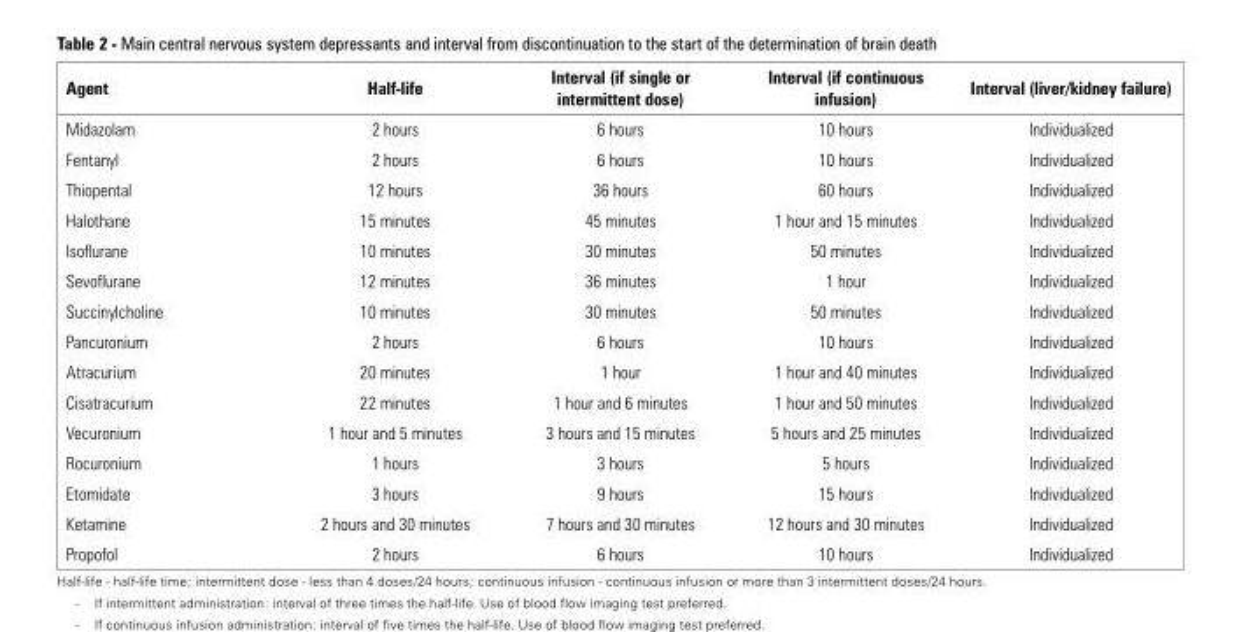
<table><thead><tr><td>Agent</td><td>Half-life</td><td>Interval (if single or intermittent dose)</td><td>Interval (if continuous infusion)</td><td>Interval (liver/kidney failure)</td></tr></thead><tbody><tr><td>Midazolam</td><td>2 hours</td><td>6 hours</td><td>10 hours</td><td>Individualized</td></tr><tr><td>Fentanyl</td><td>2 hours</td><td>6 hours</td><td>10 hours</td><td>Individualized</td></tr><tr><td>Thiopental</td><td>12 hours</td><td>36 hours</td><td>60 hours</td><td>Individualized</td></tr><tr><td>Halothane</td><td>15 minutes</td><td>45 minutes</td><td>1 hour and 15 minutes</td><td>Individualized</td></tr><tr><td>Isoflurane</td><td>10 minutes</td><td>30 minutes</td><td>50 minutes</td><td>Individualized</td></tr><tr><td>Sevoflurane</td><td>12 minutes</td><td>36 minutes</td><td>1 hour</td><td>Individualized</td></tr><tr><td>Succinylcholine</td><td>10 minutes</td><td>30 minutes</td><td>50 minutes</td><td>Individualized</td></tr><tr><td>Pancuronium</td><td>2 hours</td><td>6 hours</td><td>10 hours</td><td>Individualized</td></tr><tr><td>Atracurium</td><td>20 minutes</td><td>1 hour</td><td>1 hour and 40 minutes</td><td>Individualized</td></tr><tr><td>Cisatracurium</td><td>22 minutes</td><td>1 hour and 6 minutes</td><td>1 hour and 50 minutes</td><td>Individualized</td></tr><tr><td>Vecuronium</td><td>1 hour and 5 minutes</td><td>3 hours and 15 minutes</td><td>5 hours and 25 minutes</td><td>Individualized</td></tr><tr><td>Rocuronium</td><td>1 hours</td><td>3 hours</td><td>5 hours</td><td>Individualized</td></tr><tr><td>Etomidate</td><td>3 hours</td><td>9 hours</td><td>15 hours</td><td>Individualized</td></tr><tr><td>Ketamine</td><td>2 hours and 30 minutes</td><td>7 hours and 30 minutes</td><td>12 hours and 30 minutes</td><td>Individualized</td></tr><tr><td>Propofol</td><td>2 hours</td><td>6 hours</td><td>10 hours</td><td>Individualized</td></tr></tbody></table>